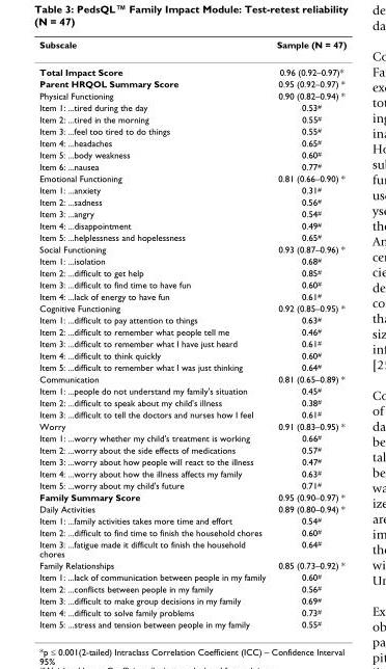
<table><thead><tr><td>Subscale</td><td>Sample (N = 47)</td></tr></thead><tbody><tr><td>Total Impact Score</td><td>0.96 (0.92–0.97)*</td></tr><tr><td>Parent HRQOL Summary Score</td><td>0.95 (0.92–0.97) *</td></tr><tr><td>Physical Functioning</td><td>0.90 (0.82–0.94) *</td></tr><tr><td>Item 1: ...tired during the day</td><td>0.53<sup>#</sup></td></tr><tr><td>Item 2: ...tired in the morning</td><td>0.55<sup>#</sup></td></tr><tr><td>Item 3: ...feel too tired to do things</td><td>0.55<sup>#</sup></td></tr><tr><td>Item 4: ...headaches</td><td>0.65<sup>#</sup></td></tr><tr><td>Item 5: ...body weakness</td><td>0.60<sup>#</sup></td></tr><tr><td>Item 6: ...nausea</td><td>0.77<sup>#</sup></td></tr><tr><td>Emotional Functioning</td><td>0.81 (0.66–0.90) *</td></tr><tr><td>Item 1: ...anxiety</td><td>0.31<sup>#</sup></td></tr><tr><td>Item 2: ...sadness</td><td>0.56<sup>#</sup></td></tr><tr><td>Item 3: ...angry</td><td>0.54<sup>#</sup></td></tr><tr><td>Item 4: ...disappointment</td><td>0.49<sup>#</sup></td></tr><tr><td>Item 5: ...helplessness and hopelessness</td><td>0.65<sup>#</sup></td></tr><tr><td>Social Functioning</td><td>0.93 (0.87–0.96) *</td></tr><tr><td>Item 1: ...isolation</td><td>0.68<sup>#</sup></td></tr><tr><td>Item 2: ...difficult to get help</td><td>0.85<sup>#</sup></td></tr><tr><td>Item 3: ...difficult to find time to have fun</td><td>0.60<sup>#</sup></td></tr><tr><td>Item 4: ...lack of energy to have fun</td><td>0.61<sup>#</sup></td></tr><tr><td>Cognitive Functioning</td><td>0.92 (0.85–0.95) *</td></tr><tr><td>Item 1: ...difficult to pay attention to things</td><td>0.63<sup>#</sup></td></tr><tr><td>Item 2: ...difficult to remember what people tell me</td><td>0.46<sup>#</sup></td></tr><tr><td>Item 3: ...difficult to remember what I have just heard</td><td>0.61<sup>#</sup></td></tr><tr><td>Item 4: ...difficult to think quickly</td><td>0.60<sup>#</sup></td></tr><tr><td>Item 5: ...difficult to remember what I was just thinking</td><td>0.64<sup>#</sup></td></tr><tr><td>Communication</td><td>0.81 (0.65–0.89) *</td></tr><tr><td>Item 1: ...people do not understand my family&#x27;s situation</td><td>0.45<sup>#</sup></td></tr><tr><td>Item 2: ...difficult to speak about my child&#x27;s illness</td><td>0.38<sup>#</sup></td></tr><tr><td>Item 3: ...difficult to tell the doctors and nurses how I feel</td><td>0.61<sup>#</sup></td></tr><tr><td>Worry</td><td>0.91 (0.83–0.95) *</td></tr><tr><td>Item 1: ...worry whether my child&#x27;s treatment is working</td><td>0.66<sup>#</sup></td></tr><tr><td>Item 2: ...worry about the side effects of medications</td><td>0.57<sup>#</sup></td></tr><tr><td>Item 3: ...worry about how people will react to the illness</td><td>0.47<sup>#</sup></td></tr><tr><td>Item 4: ...worry about how the illness affects my family</td><td>0.63<sup>#</sup></td></tr><tr><td>Item 5: ...worry about my child&#x27;s future</td><td>0.71<sup>#</sup></td></tr><tr><td>Family Summary Score</td><td>0.95 (0.90–0.97) *</td></tr><tr><td>Daily Activities</td><td>0.89 (0.80–0.94) *</td></tr><tr><td>Item 1: ...family activities takes more time and effort</td><td>0.54<sup>#</sup></td></tr><tr><td>Item 2: ...difficult to find time to finish the household chores</td><td>0.60<sup>#</sup></td></tr><tr><td>Item 3: ...fatigue made it difficult to finish the household chores</td><td>0.64<sup>#</sup></td></tr><tr><td>Family Relationships</td><td>0.85 (0.73–0.92) *</td></tr><tr><td>Item 1: ...lack of communication between people in my family</td><td>0.60<sup>#</sup></td></tr><tr><td>Item 2: ...conflicts between people in my family</td><td>0.56<sup>#</sup></td></tr><tr><td>Item 3: ...difficult to make group decisions in my family</td><td>0.69<sup>#</sup></td></tr><tr><td>Item 4: ...difficult to solve family problems</td><td>0.73<sup>#</sup></td></tr><tr><td>Item 5: ...stress and tension between people in my family</td><td>0.55<sup>#</sup></td></tr></tbody></table>